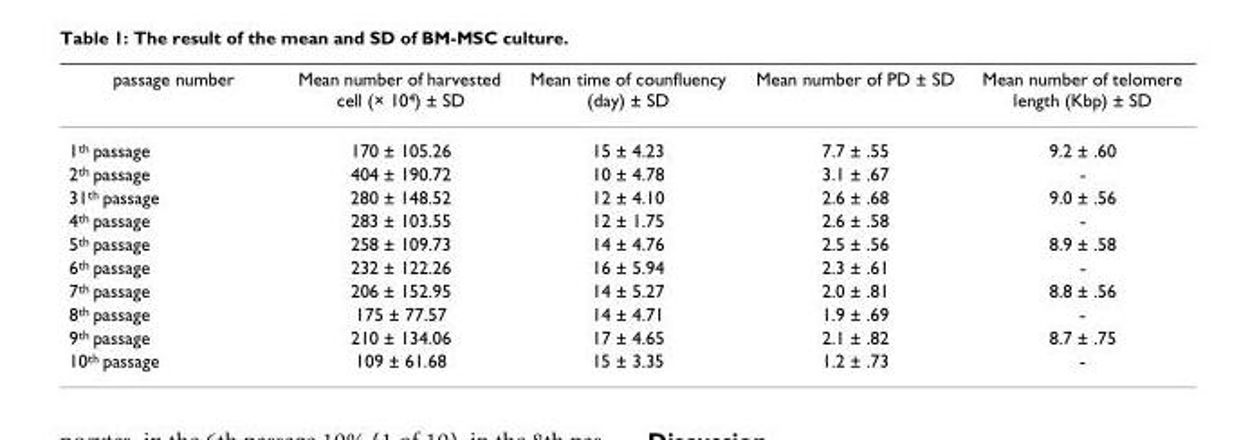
<table><thead><tr><td>passage number</td><td>Mean number of harvested cell (× 10<sup>4</sup>) ± SD</td><td>Mean time of counfluency (day) ± SD</td><td>Mean number of PD ± SD</td><td>Mean number of telomere length (Kbp) ± SD</td></tr></thead><tbody><tr><td>1<sup>th</sup> passage</td><td>170 ± 105.26</td><td>15 ± 4.23</td><td>7.7 ± .55</td><td>9.2 ± .60</td></tr><tr><td>2<sup>th</sup> passage</td><td>404 ± 190.72</td><td>10 ± 4.78</td><td>3.1 ± .67</td><td>-</td></tr><tr><td>31<sup>th</sup> passage</td><td>280 ± 148.52</td><td>12 ± 4.10</td><td>2.6 ± .68</td><td>9.0 ± .56</td></tr><tr><td>4<sup>th</sup> passage</td><td>283 ± 103.55</td><td>12 ± 1.75</td><td>2.6 ± .58</td><td>-</td></tr><tr><td>5<sup>th</sup> passage</td><td>258 ± 109.73</td><td>14 ± 4.76</td><td>2.5 ± .56</td><td>8.9 ± .58</td></tr><tr><td>6<sup>th</sup> passage</td><td>232 ± 122.26</td><td>16 ± 5.94</td><td>2.3 ± .61</td><td>-</td></tr><tr><td>7<sup>th</sup> passage</td><td>206 ± 152.95</td><td>14 ± 5.27</td><td>2.0 ± .81</td><td>8.8 ± .56</td></tr><tr><td>8<sup>th</sup> passage</td><td>175 ± 77.57</td><td>14 ± 4.71</td><td>1.9 ± .69</td><td>-</td></tr><tr><td>9<sup>th</sup> passage</td><td>210 ± 134.06</td><td>17 ± 4.65</td><td>2.1 ± .82</td><td>8.7 ± .75</td></tr><tr><td>10<sup>th</sup> passage</td><td>109 ± 61.68</td><td>15 ± 3.35</td><td>1.2 ± .73</td><td>-</td></tr></tbody></table>